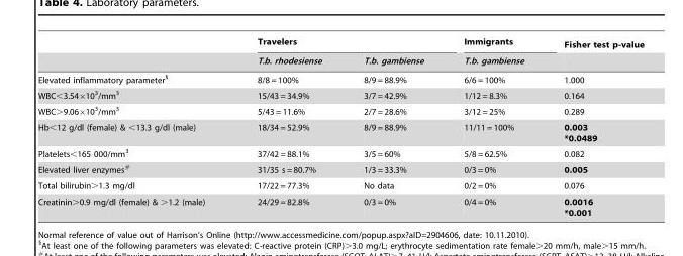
<table><thead><tr><td rowspan="2"></td><td colspan="2">Travelers</td><td rowspan="2">Immigrants T.b. gambiense</td><td rowspan="2">Fisher test p-value</td></tr><tr><td>T.b. rhodesiense</td><td>T.b. gambiense</td></tr></thead><tbody><tr><td>Elevated inflammatory parameter§</td><td>8/8 = 100%</td><td>8/9 = 88.9%</td><td>6/6 = 100%</td><td>1.000</td></tr><tr><td>WBC&lt;3.54×10<sup>3</sup>/mm<sup>3</sup></td><td>15/43 = 34.9%</td><td>3/7 = 42.9%</td><td>1/12 = 8.3%</td><td>0.164</td></tr><tr><td>WBC&gt;9.06×10<sup>3</sup>/mm<sup>3</sup></td><td>5/43 = 11.6%</td><td>2/7 = 28.6%</td><td>3/12 = 25%</td><td>0.289</td></tr><tr><td>Hb&lt;12 g/dl (female) &amp; &lt;13.3 g/dl (male)</td><td>18/34 = 52.9%</td><td>8/9 = 88.9%</td><td>11/11 = 100%</td><td>0.003 *0.0489</td></tr><tr><td>Platelets&lt;165 000/mm<sup>3</sup></td><td>37/42 = 88.1%</td><td>3/5 = 60%</td><td>5/8 = 62.5%</td><td>0.082</td></tr><tr><td>Elevated liver enzymes#</td><td>31/35 s = 80.7%</td><td>1/3 = 33.3%</td><td>0/3 = 0%</td><td>0.005</td></tr><tr><td>Total bilirubin&gt;1.3 mg/dl</td><td>17/22 = 77.3%</td><td>No data</td><td>0/2 = 0%</td><td>0.076</td></tr><tr><td>Creatinin&gt;0.9 mg/dl (female) &amp; &gt;1.2 (male)</td><td>24/29 = 82.8%</td><td>0/3 = 0%</td><td>0/4 = 0%</td><td>0.0016 *0.001</td></tr></tbody></table>